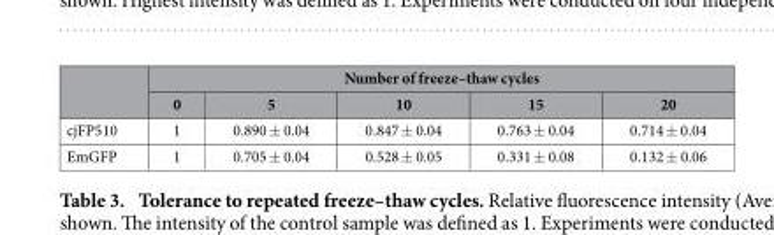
<table><thead><tr><td rowspan="2"></td><td colspan="5">Number of freeze–thaw cycles</td></tr><tr><td>0</td><td>5</td><td>10</td><td>15</td><td>20</td></tr></thead><tbody><tr><td>cjFP510</td><td>1</td><td>0.890 ± 0.04</td><td>0.847 ± 0.04</td><td>0.763 ± 0.04</td><td>0.714 ± 0.04</td></tr><tr><td>EmGFP</td><td>1</td><td>0.705 ± 0.04</td><td>0.528 ± 0.05</td><td>0.331 ± 0.08</td><td>0.132 ± 0.06</td></tr></tbody></table>